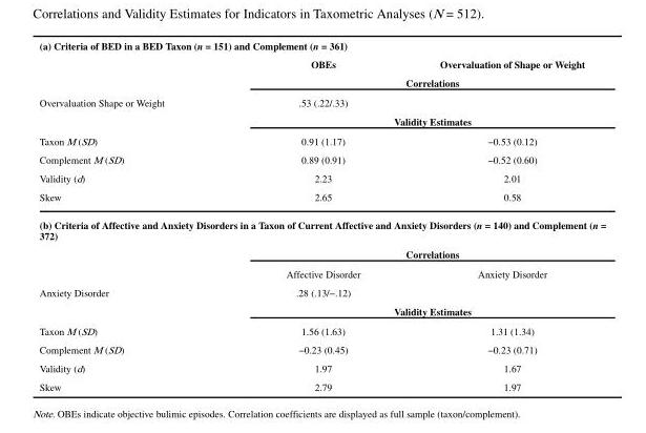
<table><thead><tr><td colspan="3">(a) Criteria of BED in a BED Taxon (n = 151) and Complement (n = 361)</td></tr><tr><td></td><td>OBEs</td><td>Overvaluation of Shape or Weight</td></tr></thead><tbody><tr><td></td><td colspan="2">Correlations</td></tr><tr><td rowspan="2">Overvaluation Shape or Weight</td><td>.53 (.22/.33)</td><td></td></tr><tr><td colspan="2">Validity Estimates</td></tr><tr><td>Taxon M (SD)</td><td>0.91 (1.17)</td><td>−0.53 (0.12)</td></tr><tr><td>Complement M (SD)</td><td>0.89 (0.91)</td><td>−0.52 (0.60)</td></tr><tr><td>Validity (d)</td><td>2.23</td><td>2.01</td></tr><tr><td>Skew</td><td>2.65</td><td>0.58</td></tr><tr><td colspan="3">(b) Criteria of Affective and Anxiety Disorders in a Taxon of Current Affective and Anxiety Disorders (n = 140) and Complement (n = 372)</td></tr><tr><td></td><td colspan="2">Correlations</td></tr><tr><td></td><td>Affective Disorder</td><td>Anxiety Disorder</td></tr><tr><td rowspan="2">Anxiety Disorder</td><td>.28 (.13/−.12)</td><td></td></tr><tr><td colspan="2">Validity Estimates</td></tr><tr><td>Taxon M (SD)</td><td>1.56 (1.63)</td><td>1.31 (1.34)</td></tr><tr><td>Complement M (SD)</td><td>−0.23 (0.45)</td><td>−0.23 (0.71)</td></tr><tr><td>Validity (d)</td><td>1.97</td><td>1.67</td></tr><tr><td>Skew</td><td>2.79</td><td>1.97</td></tr></tbody></table>